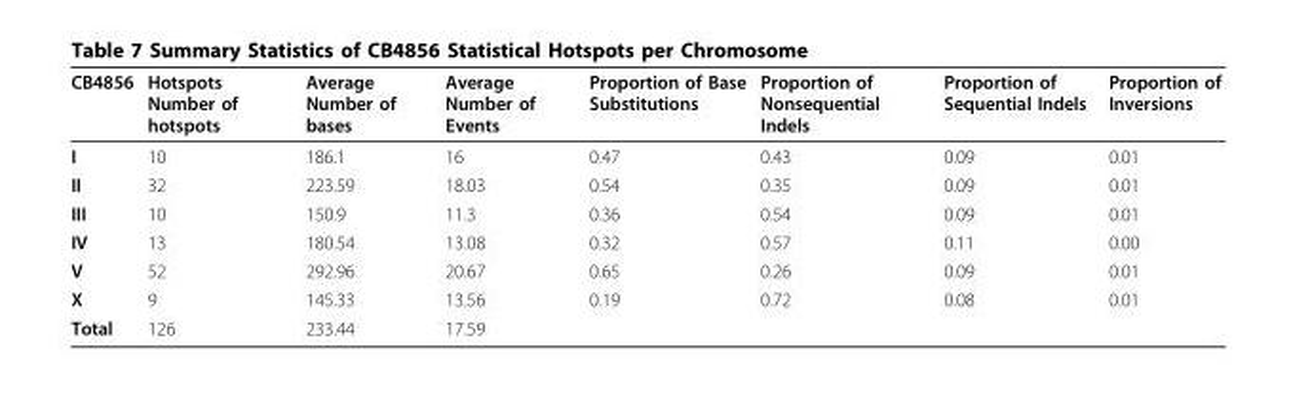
<table><thead><tr><td>CB4856</td><td>Hotspots Number of hotspots</td><td>Average Number of bases</td><td>Average Number of Events</td><td>Proportion of Base Substitutions</td><td>Proportion of Nonsequential Indels</td><td>Proportion of Sequential Indels</td><td>Proportion of Inversions</td></tr></thead><tbody><tr><td>I</td><td>10</td><td>186.1</td><td>16</td><td>0.47</td><td>0.43</td><td>0.09</td><td>0.01</td></tr><tr><td>II</td><td>32</td><td>223.59</td><td>18.03</td><td>0.54</td><td>0.35</td><td>0.09</td><td>0.01</td></tr><tr><td>III</td><td>10</td><td>150.9</td><td>11.3</td><td>0.36</td><td>0.54</td><td>0.09</td><td>0.01</td></tr><tr><td>IV</td><td>13</td><td>180.54</td><td>13.08</td><td>0.32</td><td>0.57</td><td>0.11</td><td>0.00</td></tr><tr><td>V</td><td>52</td><td>292.96</td><td>20.67</td><td>0.65</td><td>0.26</td><td>0.09</td><td>0.01</td></tr><tr><td>X</td><td>9</td><td>145.33</td><td>13.56</td><td>0.19</td><td>0.72</td><td>0.08</td><td>0.01</td></tr><tr><td>Total</td><td>126</td><td>233.44</td><td>17.59</td><td></td><td></td><td></td><td></td></tr></tbody></table>